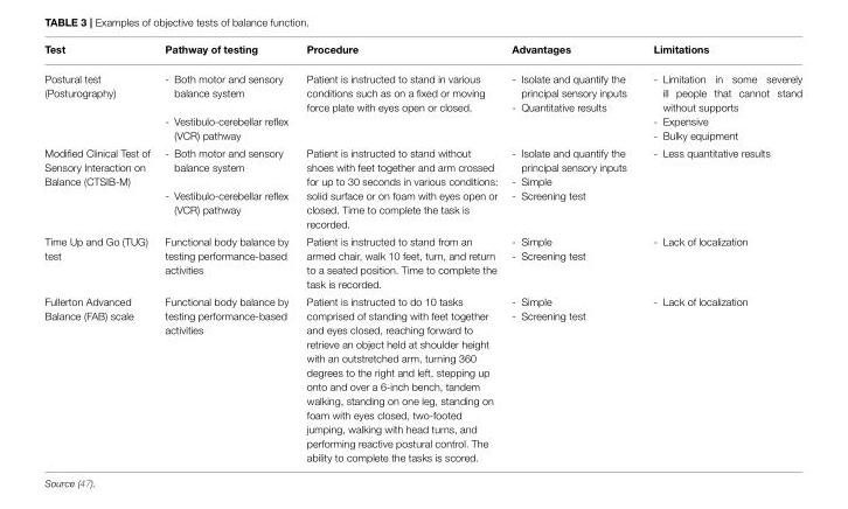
<table><thead><tr><td>Test</td><td>Pathway of testing</td><td>Procedure</td><td>Advantages</td><td>Limitations</td></tr></thead><tbody><tr><td>Postural test (Posturography)</td><td>- Both motor and sensory balance system - Vestibulo-cerebellar reflex (VCR) pathway</td><td>Patient is instructed to stand in various conditions such as on a fixed or moving force plate with eyes open or closed.</td><td>- Isolate and quantify the principal sensory inputs - Quantitative results</td><td>- Limitation in some severely ill people that cannot stand without supports - Expensive - Bulky equipment</td></tr><tr><td>Modified Clinical Test of Sensory Interaction on Balance (CTSIB-M)</td><td>- Both motor and sensory balance system - Vestibulo-cerebellar reflex (VCR) pathway</td><td>Patient is instructed to stand without shoes with feet together and arm crossed for up to 30 seconds in various conditions: solid surface or on foam with eyes open or closed. Time to complete the task is recorded.</td><td>- Isolate and quantify the principal sensory inputs - Simple - Screening test</td><td>- Less quantitative results</td></tr><tr><td>Time Up and Go (TUG) test</td><td>Functional body balance by testing performance-based activities</td><td>Patient is instructed to stand from an armed chair, walk 10 feet, turn, and return to a seated position. Time to complete the task is recorded.</td><td>- Simple - Screening test</td><td>- Lack of localization</td></tr><tr><td>Fullerton Advanced Balance (FAB) scale</td><td>Functional body balance by testing performance-based activities</td><td>Patient is instructed to do 10 tasks comprised of standing with feet together and eyes closed, reaching forward to retrieve an object held at shoulder height with an outstretched arm, turning 360 degrees to the right and left, stepping up onto and over a 6-inch bench, tandem walking, standing on one leg, standing on foam with eyes closed, two-footed jumping, walking with head turns, and performing reactive postural control. The ability to complete the tasks is scored.</td><td>- Simple - Screening test</td><td>- Lack of localization</td></tr></tbody></table>